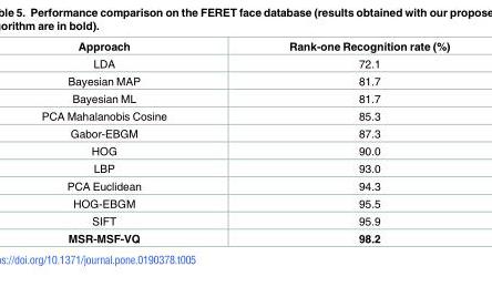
<table><thead><tr><td>Approach</td><td>Rank-one Recognition rate (%)</td></tr></thead><tbody><tr><td>LDA</td><td>72.1</td></tr><tr><td>Bayesian MAP</td><td>81.7</td></tr><tr><td>Bayesian ML</td><td>81.7</td></tr><tr><td>PCA Mahalanobis Cosine</td><td>85.3</td></tr><tr><td>Gabor-EBGM</td><td>87.3</td></tr><tr><td>HOG</td><td>90.0</td></tr><tr><td>LBP</td><td>93.0</td></tr><tr><td>PCA Euclidean</td><td>94.3</td></tr><tr><td>HOG-EBGM</td><td>95.5</td></tr><tr><td>SIFT</td><td>95.9</td></tr><tr><td>MSR-MSF-VQ</td><td>98.2</td></tr></tbody></table>